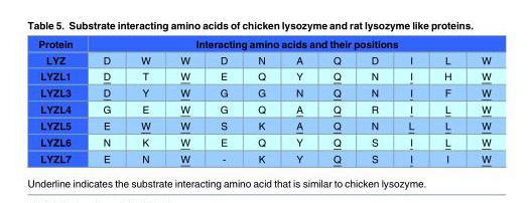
<table><thead><tr><td rowspan="2">Protein LYZ</td><td colspan="11">Interacting amino acids and their positions</td></tr><tr><td>D</td><td>W</td><td>W</td><td>D</td><td>N</td><td>A</td><td>Q</td><td>D</td><td>I</td><td>L</td><td>W</td></tr></thead><tbody><tr><td>LYZL1</td><td>D</td><td>T</td><td>W</td><td>E</td><td>Q</td><td>Y</td><td>Q</td><td>N</td><td>I</td><td>H</td><td>W</td></tr><tr><td>LYZL3</td><td>D</td><td>Y</td><td>W</td><td>G</td><td>G</td><td>N</td><td>Q</td><td>N</td><td>I</td><td>F</td><td>W</td></tr><tr><td>LYZL4</td><td>G</td><td>E</td><td>W</td><td>G</td><td>Q</td><td>A</td><td>Q</td><td>R</td><td>I</td><td>L</td><td>W</td></tr><tr><td>LYZL5</td><td>E</td><td>W</td><td>W</td><td>S</td><td>K</td><td>A</td><td>Q</td><td>N</td><td>L</td><td>L</td><td>W</td></tr><tr><td>LYZL6</td><td>N</td><td>K</td><td>W</td><td>E</td><td>Q</td><td>Y</td><td>Q</td><td>S</td><td>I</td><td>L</td><td>W</td></tr><tr><td>LYZL7</td><td>E</td><td>N</td><td>W</td><td>-</td><td>K</td><td>Y</td><td>Q</td><td>S</td><td>I</td><td>I</td><td>W</td></tr></tbody></table>